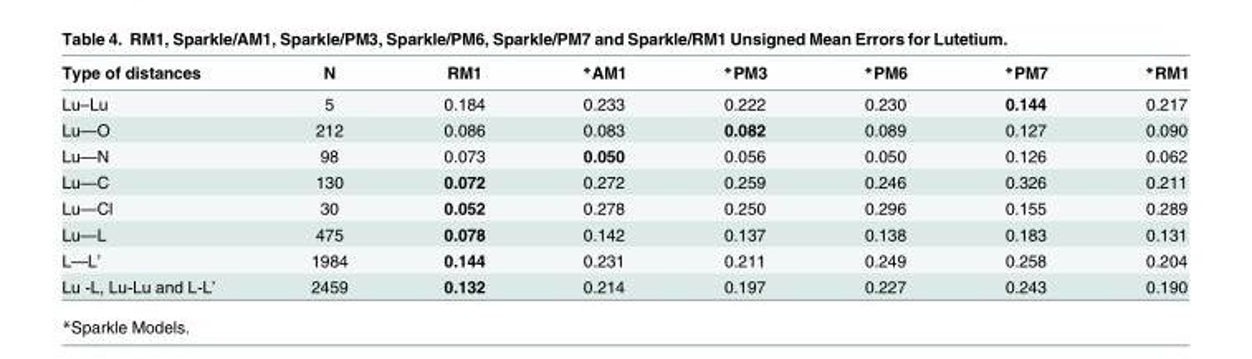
<table><thead><tr><td>Type of distances</td><td>N</td><td>RM1</td><td>*AM1</td><td>*PM3</td><td>*PM6</td><td>*PM7</td><td>*RM1</td></tr></thead><tbody><tr><td>Lu–Lu</td><td>5</td><td>0.184</td><td>0.233</td><td>0.222</td><td>0.230</td><td>0.144</td><td>0.217</td></tr><tr><td>Lu—O</td><td>212</td><td>0.086</td><td>0.083</td><td>0.082</td><td>0.089</td><td>0.127</td><td>0.090</td></tr><tr><td>Lu—N</td><td>98</td><td>0.073</td><td>0.050</td><td>0.056</td><td>0.050</td><td>0.126</td><td>0.062</td></tr><tr><td>Lu—C</td><td>130</td><td>0.072</td><td>0.272</td><td>0.259</td><td>0.246</td><td>0.326</td><td>0.211</td></tr><tr><td>Lu—Cl</td><td>30</td><td>0.052</td><td>0.278</td><td>0.250</td><td>0.296</td><td>0.155</td><td>0.289</td></tr><tr><td>Lu—L</td><td>475</td><td>0.078</td><td>0.142</td><td>0.137</td><td>0.138</td><td>0.183</td><td>0.131</td></tr><tr><td>L—L’</td><td>1984</td><td>0.144</td><td>0.231</td><td>0.211</td><td>0.249</td><td>0.258</td><td>0.204</td></tr><tr><td>Lu -L, Lu-Lu and L-L’</td><td>2459</td><td>0.132</td><td>0.214</td><td>0.197</td><td>0.227</td><td>0.243</td><td>0.190</td></tr></tbody></table>